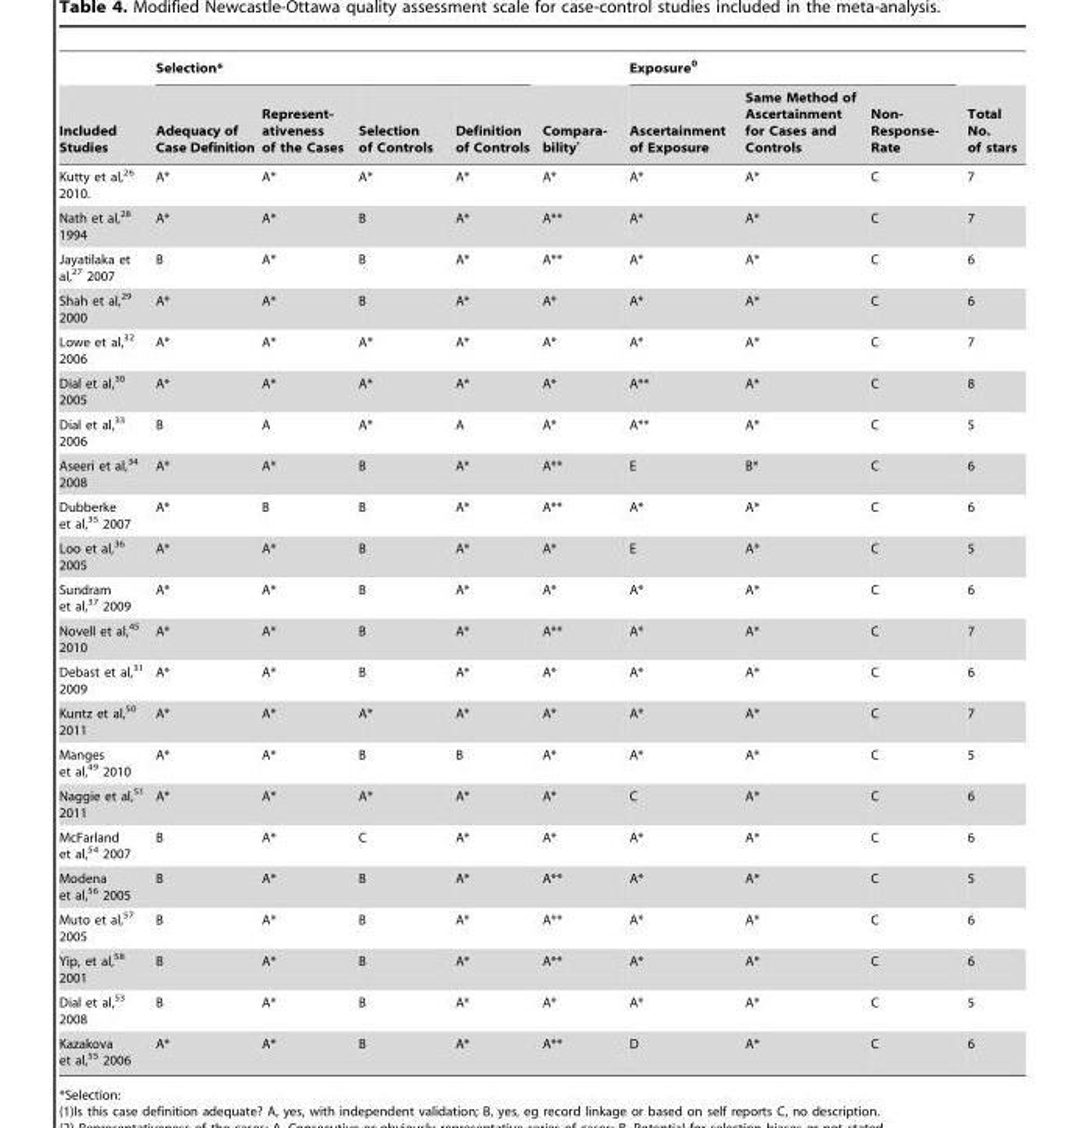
<table><thead><tr><td rowspan="2">Included Studies</td><td colspan="4">Selection*</td><td rowspan="2">Compara- bilityN</td><td colspan="3">Exposure<sup>0</sup></td><td rowspan="2">Total No. of stars</td></tr><tr><td>Adequacy of Case Definition</td><td>Represent- ativeness of the Cases</td><td>Selection of Controls</td><td>Definition of Controls</td><td>Ascertainment of Exposure</td><td>Same Method of Ascertainment for Cases and Controls</td><td>Non- Response- Rate</td></tr></thead><tbody><tr><td>Kutty et al,<sup>26</sup> 2010.</td><td>A*</td><td>A*</td><td>A*</td><td>A*</td><td>A*</td><td>A*</td><td>A*</td><td>C</td><td>7</td></tr><tr><td>Nath et al,<sup>28</sup> 1994</td><td>A*</td><td>A*</td><td>B</td><td>A*</td><td>A**</td><td>A*</td><td>A*</td><td>C</td><td>7</td></tr><tr><td>Jayatilaka et al,<sup>27</sup> 2007</td><td>B</td><td>A*</td><td>B</td><td>A*</td><td>A**</td><td>A*</td><td>A*</td><td>C</td><td>6</td></tr><tr><td>Shah et al,<sup>29</sup> 2000</td><td>A*</td><td>A*</td><td>B</td><td>A*</td><td>A*</td><td>A*</td><td>A*</td><td>C</td><td>6</td></tr><tr><td>Lowe et al,<sup>32</sup> 2006</td><td>A*</td><td>A*</td><td>A*</td><td>A*</td><td>A*</td><td>A*</td><td>A*</td><td>C</td><td>7</td></tr><tr><td>Dial et al,<sup>30</sup> 2005</td><td>A*</td><td>A*</td><td>A*</td><td>A*</td><td>A*</td><td>A**</td><td>A*</td><td>C</td><td>8</td></tr><tr><td>Dial et al,<sup>33</sup> 2006</td><td>B</td><td>A</td><td>A*</td><td>A</td><td>A*</td><td>A**</td><td>A*</td><td>C</td><td>5</td></tr><tr><td>Aseeri et al,<sup>34</sup> 2008</td><td>A*</td><td>A*</td><td>B</td><td>A*</td><td>A**</td><td>E</td><td>B*</td><td>C</td><td>6</td></tr><tr><td>Dubberke et al,<sup>35</sup> 2007</td><td>A*</td><td>B</td><td>B</td><td>A*</td><td>A**</td><td>A*</td><td>A*</td><td>C</td><td>6</td></tr><tr><td>Loo et al,<sup>36</sup> 2005</td><td>A*</td><td>A*</td><td>B</td><td>A*</td><td>A*</td><td>E</td><td>A*</td><td>C</td><td>5</td></tr><tr><td>Sundram et al,<sup>37</sup> 2009</td><td>A*</td><td>A*</td><td>B</td><td>A*</td><td>A*</td><td>A*</td><td>A*</td><td>C</td><td>6</td></tr><tr><td>Novell et al,<sup>45</sup> 2010</td><td>A*</td><td>A*</td><td>B</td><td>A*</td><td>A**</td><td>A*</td><td>A*</td><td>C</td><td>7</td></tr><tr><td>Debast et al,<sup>31</sup> 2009</td><td>A*</td><td>A*</td><td>B</td><td>A*</td><td>A*</td><td>A*</td><td>A*</td><td>C</td><td>6</td></tr><tr><td>Kuntz et al,<sup>50</sup> 2011</td><td>A*</td><td>A*</td><td>A*</td><td>A*</td><td>A*</td><td>A*</td><td>A*</td><td>C</td><td>7</td></tr><tr><td>Manges et al,<sup>49</sup> 2010</td><td>A*</td><td>A*</td><td>B</td><td>B</td><td>A*</td><td>A*</td><td>A*</td><td>C</td><td>5</td></tr><tr><td>Naggie et al,<sup>51</sup> 2011</td><td>A*</td><td>A*</td><td>A*</td><td>A*</td><td>A*</td><td>C</td><td>A*</td><td>C</td><td>6</td></tr><tr><td>McFarland et al,<sup>54</sup> 2007</td><td>B</td><td>A*</td><td>C</td><td>A*</td><td>A*</td><td>A*</td><td>A*</td><td>C</td><td>6</td></tr><tr><td>Modena et al,<sup>56</sup> 2005</td><td>B</td><td>A*</td><td>B</td><td>A*</td><td>A**</td><td>A*</td><td>A*</td><td>C</td><td>5</td></tr><tr><td>Muto et al,<sup>57</sup> 2005</td><td>B</td><td>A*</td><td>B</td><td>A*</td><td>A**</td><td>A*</td><td>A*</td><td>C</td><td>6</td></tr><tr><td>Yip, et al,<sup>58</sup> 2001</td><td>B</td><td>A*</td><td>B</td><td>A*</td><td>A**</td><td>A*</td><td>A*</td><td>C</td><td>6</td></tr><tr><td>Dial et al,<sup>53</sup> 2008</td><td>B</td><td>A*</td><td>B</td><td>A*</td><td>A*</td><td>A*</td><td>A*</td><td>C</td><td>5</td></tr><tr><td>Kazakova et al,<sup>55</sup> 2006</td><td>A*</td><td>A*</td><td>B</td><td>A*</td><td>A**</td><td>D</td><td>A*</td><td>C</td><td>6</td></tr></tbody></table>